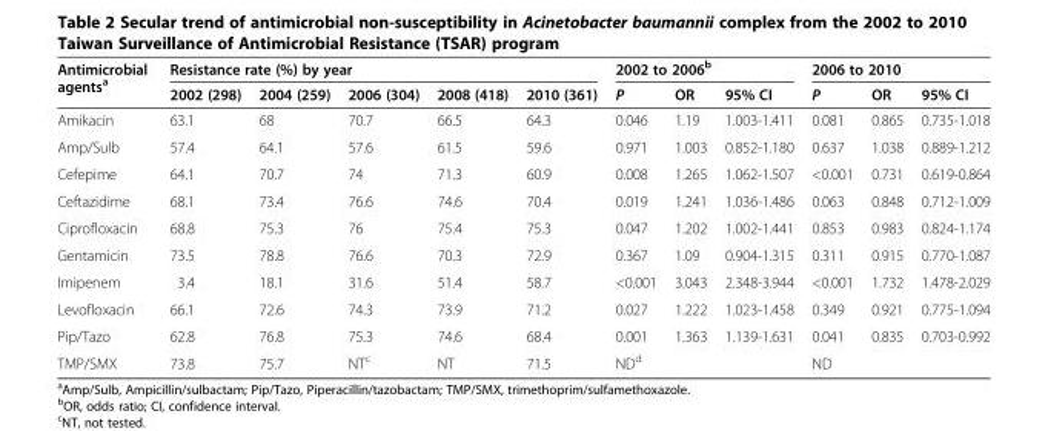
<table><thead><tr><td rowspan="2">Antimicrobial agents<sup>a</sup></td><td colspan="5">Resistance rate (%) by year</td><td colspan="3">2002 to 2006<sup>b</sup></td><td colspan="3">2006 to 2010</td></tr><tr><td>2002 (298)</td><td>2004 (259)</td><td>2006 (304)</td><td>2008 (418)</td><td>2010 (361)</td><td>P</td><td>OR</td><td>95% CI</td><td>P</td><td>OR</td><td>95% CI</td></tr></thead><tbody><tr><td>Amikacin</td><td>63.1</td><td>68</td><td>70.7</td><td>66.5</td><td>64.3</td><td>0.046</td><td>1.19</td><td>1.003-1.411</td><td>0.081</td><td>0.865</td><td>0.735-1.018</td></tr><tr><td>Amp/Sulb</td><td>57.4</td><td>64.1</td><td>57.6</td><td>61.5</td><td>59.6</td><td>0.971</td><td>1.003</td><td>0.852-1.180</td><td>0.637</td><td>1.038</td><td>0.889-1.212</td></tr><tr><td>Cefepime</td><td>64.1</td><td>70.7</td><td>74</td><td>71.3</td><td>60.9</td><td>0.008</td><td>1.265</td><td>1.062-1.507</td><td>&lt;0.001</td><td>0.731</td><td>0.619-0.864</td></tr><tr><td>Ceftazidime</td><td>68.1</td><td>73.4</td><td>76.6</td><td>74.6</td><td>70.4</td><td>0.019</td><td>1.241</td><td>1.036-1.486</td><td>0.063</td><td>0.848</td><td>0.712-1.009</td></tr><tr><td>Ciprofloxacin</td><td>68.8</td><td>75.3</td><td>76</td><td>75.4</td><td>75.3</td><td>0.047</td><td>1.202</td><td>1.002-1.441</td><td>0.853</td><td>0.983</td><td>0.824-1.174</td></tr><tr><td>Gentamicin</td><td>73.5</td><td>78.8</td><td>76.6</td><td>70.3</td><td>72.9</td><td>0.367</td><td>1.09</td><td>0.904-1.315</td><td>0.311</td><td>0.915</td><td>0.770-1.087</td></tr><tr><td>Imipenem</td><td>3.4</td><td>18.1</td><td>31.6</td><td>51.4</td><td>58.7</td><td>&lt;0.001</td><td>3.043</td><td>2.348-3.944</td><td>&lt;0.001</td><td>1.732</td><td>1.478-2.029</td></tr><tr><td>Levofloxacin</td><td>66.1</td><td>72.6</td><td>74.3</td><td>73.9</td><td>71.2</td><td>0.027</td><td>1.222</td><td>1.023-1.458</td><td>0.349</td><td>0.921</td><td>0.775-1.094</td></tr><tr><td>Pip/Tazo</td><td>62.8</td><td>76.8</td><td>75.3</td><td>74.6</td><td>68.4</td><td>0.001</td><td>1.363</td><td>1.139-1.631</td><td>0.041</td><td>0.835</td><td>0.703-0.992</td></tr><tr><td>TMP/SMX</td><td>73.8</td><td>75.7</td><td>NT<sup>c</sup></td><td>NT</td><td>71.5</td><td>ND<sup>d</sup></td><td></td><td></td><td>ND</td><td></td><td></td></tr></tbody></table>